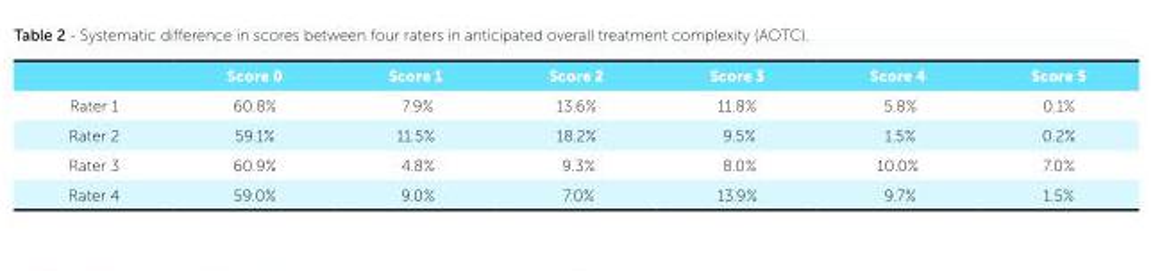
<table><thead><tr><td></td><td>Score 0</td><td>Score 1</td><td>Score 2</td><td>Score 3</td><td>Score 4</td><td>Score 5</td></tr></thead><tbody><tr><td>Rater 1</td><td>60.8%</td><td>7.9%</td><td>13.6%</td><td>11.8%</td><td>5.8%</td><td>0.1%</td></tr><tr><td>Rater 2</td><td>59.1%</td><td>11.5%</td><td>18.2%</td><td>9.5%</td><td>1.5%</td><td>0.2%</td></tr><tr><td>Rater 3</td><td>60.9%</td><td>4.8%</td><td>9.3%</td><td>8.0%</td><td>10.0%</td><td>7.0%</td></tr><tr><td>Rater 4</td><td>59.0%</td><td>9.0%</td><td>7.0%</td><td>13.9%</td><td>9.7%</td><td>1.5%</td></tr></tbody></table>